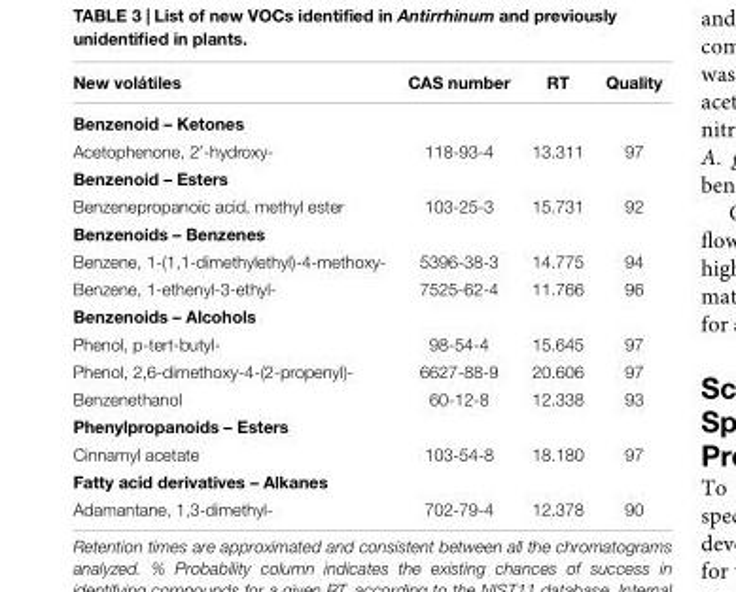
<table><thead><tr><td>New volátiles</td><td>CAS number</td><td>RT</td><td>Quality</td></tr></thead><tbody><tr><td colspan="4">Benzenoid – Ketones</td></tr><tr><td>Acetophenone, 2′-hydroxy-</td><td>118-93-4</td><td>13.311</td><td>97</td></tr><tr><td colspan="4">Benzenoid – Esters</td></tr><tr><td>Benzenepropanoic acid, methyl ester</td><td>103-25-3</td><td>15.731</td><td>92</td></tr><tr><td colspan="4">Benzenoids – Benzenes</td></tr><tr><td>Benzene, 1-(1,1-dimethylethyl)-4-methoxy-</td><td>5396-38-3</td><td>14.775</td><td>94</td></tr><tr><td>Benzene, 1-ethenyl-3-ethyl-</td><td>7525-62-4</td><td>11.766</td><td>96</td></tr><tr><td colspan="4">Benzenoids – Alcohols</td></tr><tr><td>Phenol, p-tert-butyl-</td><td>98-54-4</td><td>15.645</td><td>97</td></tr><tr><td>Phenol, 2,6-dimethoxy-4-(2-propenyl)-</td><td>6627-88-9</td><td>20.606</td><td>97</td></tr><tr><td>Benzenethanol</td><td>60-12-8</td><td>12.338</td><td>93</td></tr><tr><td colspan="4">Phenylpropanoids – Esters</td></tr><tr><td>Cinnamyl acetate</td><td>103-54-8</td><td>18.180</td><td>97</td></tr><tr><td colspan="4">Fatty acid derivatives – Alkanes</td></tr><tr><td>Adamantane, 1,3-dimethyl-</td><td>702-79-4</td><td>12.378</td><td>90</td></tr></tbody></table>